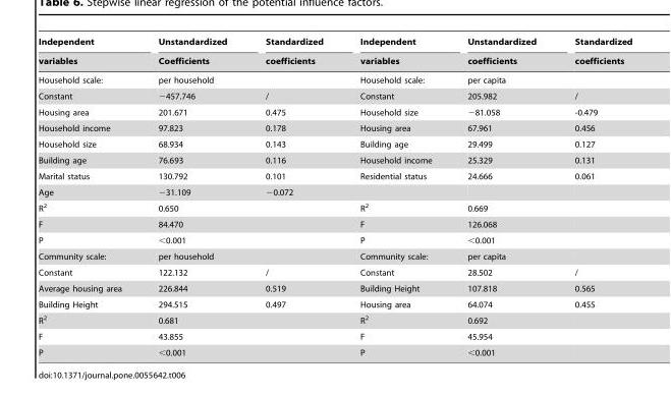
<table><thead><tr><td rowspan="2">Independent variables</td><td rowspan="2">Unstandardized Coefficients</td><td rowspan="2">Standardized coefficients</td><td rowspan="2">Independent variables</td><td rowspan="2">Unstandardized coefficients</td><td rowspan="2">Standardized coefficients</td></tr><tr></tr></thead><tbody><tr><td>Household scale:</td><td>per household</td><td></td><td>Household scale:</td><td>per capita</td><td></td></tr><tr><td>Constant</td><td>−457.746</td><td>/</td><td>Constant</td><td>205.982</td><td>/</td></tr><tr><td>Housing area</td><td>201.671</td><td>0.475</td><td>Household size</td><td>−81.058</td><td>-0.479</td></tr><tr><td>Household income</td><td>97.823</td><td>0.178</td><td>Housing area</td><td>67.961</td><td>0.456</td></tr><tr><td>Household size</td><td>68.934</td><td>0.143</td><td>Building age</td><td>29.499</td><td>0.127</td></tr><tr><td>Building age</td><td>76.693</td><td>0.116</td><td>Household income</td><td>25.329</td><td>0.131</td></tr><tr><td>Marital status</td><td>130.792</td><td>0.101</td><td>Residential status</td><td>24.666</td><td>0.061</td></tr><tr><td>Age</td><td>−31.109</td><td>−0.072</td><td></td><td></td><td></td></tr><tr><td>R<sup>2</sup></td><td>0.650</td><td></td><td>R<sup>2</sup></td><td>0.669</td><td></td></tr><tr><td>F</td><td>84.470</td><td></td><td>F</td><td>126.068</td><td></td></tr><tr><td>P</td><td>&lt;0.001</td><td></td><td>P</td><td>&lt;0.001</td><td></td></tr><tr><td>Community scale:</td><td>per household</td><td></td><td>Community scale:</td><td>per capita</td><td></td></tr><tr><td>Constant</td><td>122.132</td><td>/</td><td>Constant</td><td>28.502</td><td>/</td></tr><tr><td>Average housing area</td><td>226.844</td><td>0.519</td><td>Building Height</td><td>107.818</td><td>0.565</td></tr><tr><td>Building Height</td><td>294.515</td><td>0.497</td><td>Housing area</td><td>64.074</td><td>0.455</td></tr><tr><td>R<sup>2</sup></td><td>0.681</td><td></td><td>R<sup>2</sup></td><td>0.692</td><td></td></tr><tr><td>F</td><td>43.855</td><td></td><td>F</td><td>45.954</td><td></td></tr><tr><td>P</td><td>&lt;0.001</td><td></td><td>P</td><td>&lt;0.001</td><td></td></tr></tbody></table>